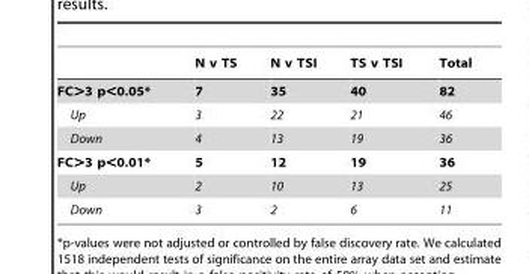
<table><thead><tr><td></td><td>N v TS</td><td>N v TSI</td><td>TS v TSI</td><td>Total</td></tr></thead><tbody><tr><td>FC&gt;3 p&lt;0.05*</td><td>7</td><td>35</td><td>40</td><td>82</td></tr><tr><td>Up</td><td>3</td><td>22</td><td>21</td><td>46</td></tr><tr><td>Down</td><td>4</td><td>13</td><td>19</td><td>36</td></tr><tr><td>FC&gt;3 p&lt;0.01*</td><td>5</td><td>12</td><td>19</td><td>36</td></tr><tr><td>Up</td><td>2</td><td>10</td><td>13</td><td>25</td></tr><tr><td>Down</td><td>3</td><td>2</td><td>6</td><td>11</td></tr></tbody></table>